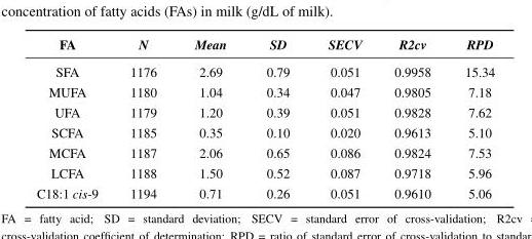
<table><thead><tr><td>FA</td><td>N</td><td>Mean</td><td>SD</td><td>SECV</td><td>R<sup>2</sup>cv</td><td>RPD</td></tr></thead><tbody><tr><td>SFA</td><td>1176</td><td>2.69</td><td>0.79</td><td>0.051</td><td>0.9958</td><td>15.34</td></tr><tr><td>MUFA</td><td>1180</td><td>1.04</td><td>0.34</td><td>0.047</td><td>0.9805</td><td>7.18</td></tr><tr><td>UFA</td><td>1179</td><td>1.20</td><td>0.39</td><td>0.051</td><td>0.9828</td><td>7.62</td></tr><tr><td>SCFA</td><td>1185</td><td>0.35</td><td>0.10</td><td>0.020</td><td>0.9613</td><td>5.10</td></tr><tr><td>MCFA</td><td>1187</td><td>2.06</td><td>0.65</td><td>0.086</td><td>0.9824</td><td>7.53</td></tr><tr><td>LCFA</td><td>1188</td><td>1.50</td><td>0.52</td><td>0.087</td><td>0.9718</td><td>5.96</td></tr><tr><td>C18:1 cis-9</td><td>1194</td><td>0.71</td><td>0.26</td><td>0.051</td><td>0.9610</td><td>5.06</td></tr></tbody></table>